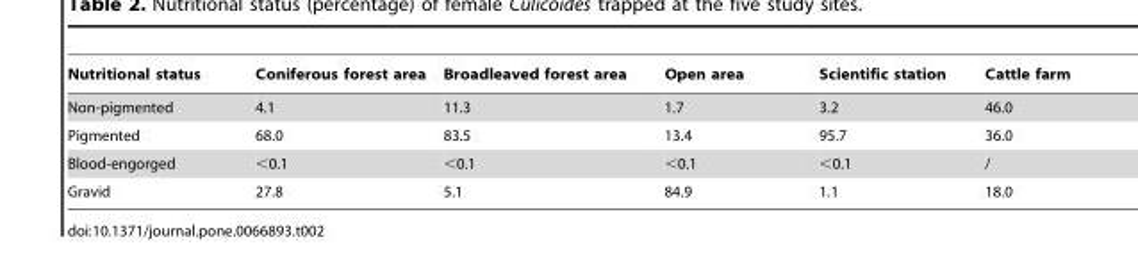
<table><thead><tr><td>Nutritional status</td><td>Coniferous forest area</td><td>Broadleaved forest area</td><td>Open area</td><td>Scientific station</td><td>Cattle farm</td></tr></thead><tbody><tr><td>Non-pigmented</td><td>4.1</td><td>11.3</td><td>1.7</td><td>3.2</td><td>46.0</td></tr><tr><td>Pigmented</td><td>68.0</td><td>83.5</td><td>13.4</td><td>95.7</td><td>36.0</td></tr><tr><td>Blood-engorged</td><td>&lt;0.1</td><td>&lt;0.1</td><td>&lt;0.1</td><td>&lt;0.1</td><td>/</td></tr><tr><td>Gravid</td><td>27.8</td><td>5.1</td><td>84.9</td><td>1.1</td><td>18.0</td></tr></tbody></table>